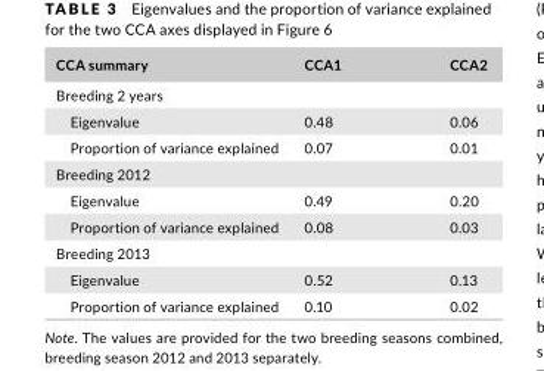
<table><thead><tr><td>CCA summary</td><td>CCA1</td><td>CCA2</td></tr></thead><tbody><tr><td colspan="3">Breeding 2 years</td></tr><tr><td>Eigenvalue</td><td>0.48</td><td>0.06</td></tr><tr><td>Proportion of variance explained</td><td>0.07</td><td>0.01</td></tr><tr><td colspan="3">Breeding 2012</td></tr><tr><td>Eigenvalue</td><td>0.49</td><td>0.20</td></tr><tr><td>Proportion of variance explained</td><td>0.08</td><td>0.03</td></tr><tr><td colspan="3">Breeding 2013</td></tr><tr><td>Eigenvalue</td><td>0.52</td><td>0.13</td></tr><tr><td>Proportion of variance explained</td><td>0.10</td><td>0.02</td></tr></tbody></table>